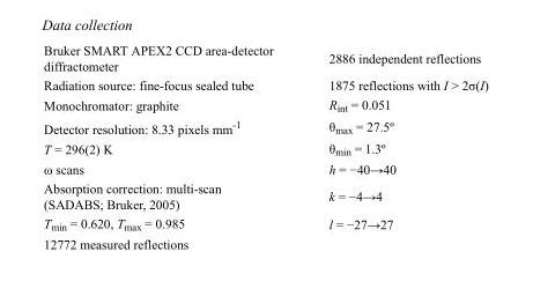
<table><tbody><tr><td>Bruker SMART APEX2 CCD area-detector diffractometer</td><td>2886 independent reflections</td></tr><tr><td>Radiation source: fine-focus sealed tube</td><td>1875 reflections with I &gt; 2σ(I)</td></tr><tr><td>Monochromator: graphite</td><td>R<sub>int</sub> = 0.051</td></tr><tr><td>Detector resolution: 8.33 pixels mm<sup>-1</sup></td><td>θ<sub>max</sub> = 27.5º</td></tr><tr><td>T = 296(2) K</td><td>θ<sub>min</sub> = 1.3º</td></tr><tr><td>ω scans</td><td>h = −40→40</td></tr><tr><td>Absorption correction: multi-scan (SADABS; Bruker, 2005)</td><td>k = −4→4</td></tr><tr><td>T<sub>min</sub> = 0.620, T<sub>max</sub> = 0.985</td><td>l = −27→27</td></tr><tr><td>12772 measured reflections</td><td></td></tr></tbody></table>